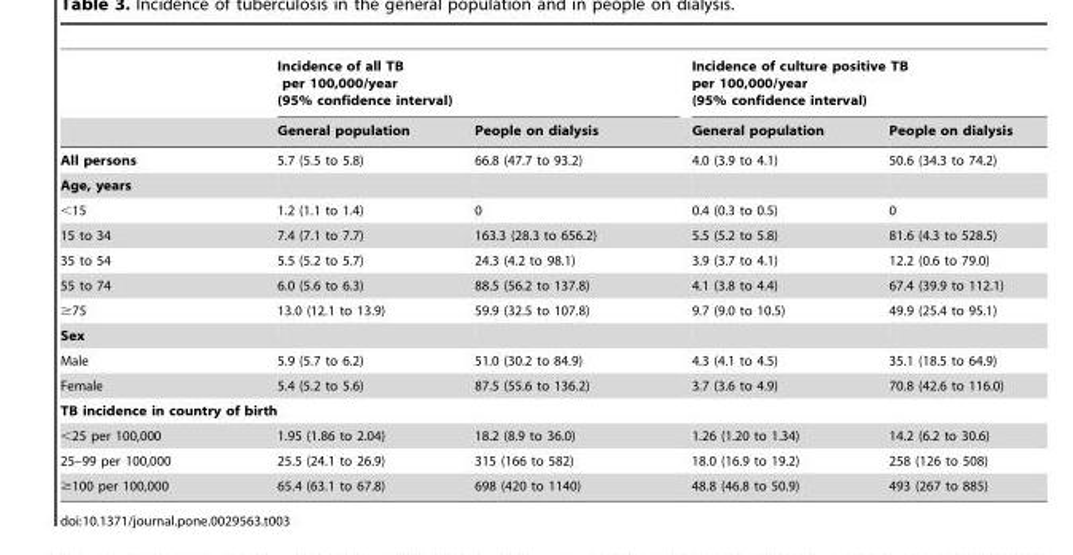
<table><thead><tr><td rowspan="2"></td><td colspan="2">Incidence of all TB per 100,000/year (95% confidence interval)</td><td colspan="2">Incidence of culture positive TB per 100,000/year (95% confidence interval)</td></tr><tr><td>General population</td><td>People on dialysis</td><td>General population</td><td>People on dialysis</td></tr></thead><tbody><tr><td>All persons</td><td>5.7 (5.5 to 5.8)</td><td>66.8 (47.7 to 93.2)</td><td>4.0 (3.9 to 4.1)</td><td>50.6 (34.3 to 74.2)</td></tr><tr><td colspan="5">Age, years</td></tr><tr><td>&lt;15</td><td>1.2 (1.1 to 1.4)</td><td>0</td><td>0.4 (0.3 to 0.5)</td><td>0</td></tr><tr><td>15 to 34</td><td>7.4 (7.1 to 7.7)</td><td>163.3 (28.3 to 656.2)</td><td>5.5 (5.2 to 5.8)</td><td>81.6 (4.3 to 528.5)</td></tr><tr><td>35 to 54</td><td>5.5 (5.2 to 5.7)</td><td>24.3 (4.2 to 98.1)</td><td>3.9 (3.7 to 4.1)</td><td>12.2 (0.6 to 79.0)</td></tr><tr><td>55 to 74</td><td>6.0 (5.6 to 6.3)</td><td>88.5 (56.2 to 137.8)</td><td>4.1 (3.8 to 4.4)</td><td>67.4 (39.9 to 112.1)</td></tr><tr><td>≥75</td><td>13.0 (12.1 to 13.9)</td><td>59.9 (32.5 to 107.8)</td><td>9.7 (9.0 to 10.5)</td><td>49.9 (25.4 to 95.1)</td></tr><tr><td colspan="5">Sex</td></tr><tr><td>Male</td><td>5.9 (5.7 to 6.2)</td><td>51.0 (30.2 to 84.9)</td><td>4.3 (4.1 to 4.5)</td><td>35.1 (18.5 to 64.9)</td></tr><tr><td>Female</td><td>5.4 (5.2 to 5.6)</td><td>87.5 (55.6 to 136.2)</td><td>3.7 (3.6 to 4.9)</td><td>70.8 (42.6 to 116.0)</td></tr><tr><td colspan="5">TB incidence in country of birth</td></tr><tr><td>&lt;25 per 100,000</td><td>1.95 (1.86 to 2.04)</td><td>18.2 (8.9 to 36.0)</td><td>1.26 (1.20 to 1.34)</td><td>14.2 (6.2 to 30.6)</td></tr><tr><td>25–99 per 100,000</td><td>25.5 (24.1 to 26.9)</td><td>315 (166 to 582)</td><td>18.0 (16.9 to 19.2)</td><td>258 (126 to 508)</td></tr><tr><td>≥100 per 100,000</td><td>65.4 (63.1 to 67.8)</td><td>698 (420 to 1140)</td><td>48.8 (46.8 to 50.9)</td><td>493 (267 to 885)</td></tr></tbody></table>